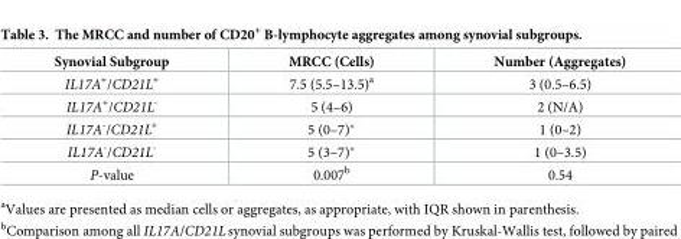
<table><thead><tr><td>Synovial Subgroup</td><td>MRCC (Cells)</td><td>Number (Aggregates)</td></tr></thead><tbody><tr><td>IL17A<sup>+</sup>/CD21L<sup>+</sup></td><td>7.5 (5.5–13.5)<sup>a</sup></td><td>3 (0.5–6.5)</td></tr><tr><td>IL17A<sup>+</sup>/CD21L<sup>-</sup></td><td>5 (4–6)</td><td>2 (N/A)</td></tr><tr><td>IL17A<sup>-</sup>/CD21L<sup>+</sup></td><td>5 (0–7)*</td><td>1 (0–2)</td></tr><tr><td>IL17A<sup>-</sup>/CD21L<sup>-</sup></td><td>5 (3–7)*</td><td>1 (0–3.5)</td></tr><tr><td>P-value</td><td>0.007<sup>b</sup></td><td>0.54</td></tr></tbody></table>